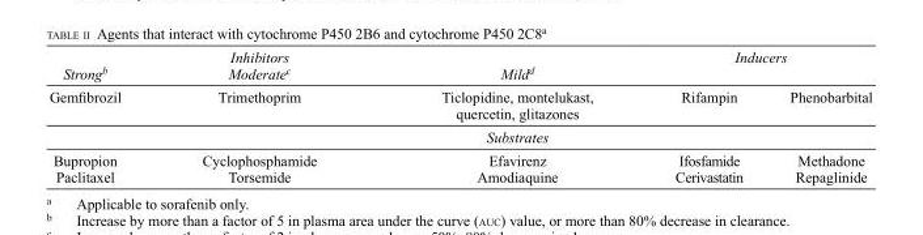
<table><thead><tr><td rowspan="2">Strongb Gemfibrozil</td><td rowspan="2">Inhibitors Moderatec Trimethoprim</td><td rowspan="2">Mildd Ticlopidine, montelukast, quercetin, glitazones</td><td colspan="2">Inducers</td></tr><tr><td>Rifampin</td><td>Phenobarbital</td></tr></thead><tbody><tr><td colspan="5">Substrates</td></tr><tr><td>Bupropion</td><td>Cyclophosphamide</td><td>Efavirenz</td><td>Ifosfamide</td><td>Methadone</td></tr><tr><td>Paclitaxel</td><td>Torsemide</td><td>Amodiaquine</td><td>Cerivastatin</td><td>Repaglinide</td></tr></tbody></table>